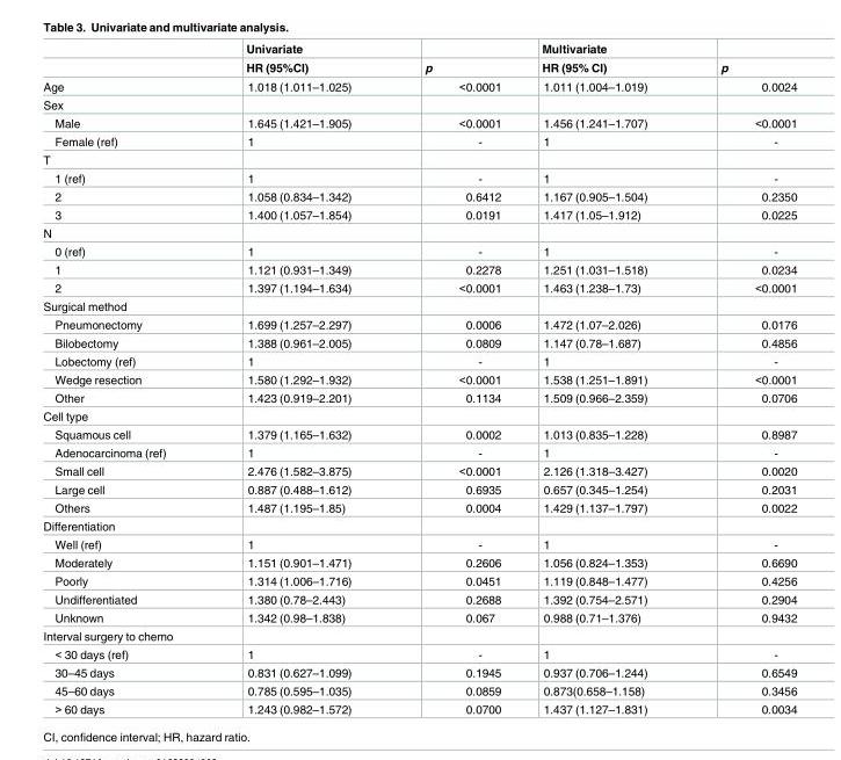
<table><thead><tr><td rowspan="2"></td><td rowspan="2">Univariate HR (95%CI)</td><td rowspan="2">p</td><td rowspan="2">Multivariate HR (95% CI)</td><td rowspan="2">p</td></tr><tr></tr></thead><tbody><tr><td>Age</td><td>1.018 (1.011–1.025)</td><td>&lt;0.0001</td><td>1.011 (1.004–1.019)</td><td>0.0024</td></tr><tr><td colspan="5">Sex</td></tr><tr><td>Male</td><td>1.645 (1.421–1.905)</td><td>&lt;0.0001</td><td>1.456 (1.241–1.707)</td><td>&lt;0.0001</td></tr><tr><td>Female (ref)</td><td>1</td><td>-</td><td>1</td><td>-</td></tr><tr><td colspan="5">T</td></tr><tr><td>1 (ref)</td><td>1</td><td>-</td><td>1</td><td>-</td></tr><tr><td>2</td><td>1.058 (0.834–1.342)</td><td>0.6412</td><td>1.167 (0.905–1.504)</td><td>0.2350</td></tr><tr><td>3</td><td>1.400 (1.057–1.854)</td><td>0.0191</td><td>1.417 (1.05–1.912)</td><td>0.0225</td></tr><tr><td colspan="5">N</td></tr><tr><td>0 (ref)</td><td>1</td><td>-</td><td>1</td><td>-</td></tr><tr><td>1</td><td>1.121 (0.931–1.349)</td><td>0.2278</td><td>1.251 (1.031–1.518)</td><td>0.0234</td></tr><tr><td>2</td><td>1.397 (1.194–1.634)</td><td>&lt;0.0001</td><td>1.463 (1.238–1.73)</td><td>&lt;0.0001</td></tr><tr><td colspan="5">Surgical method</td></tr><tr><td>Pneumonectomy</td><td>1.699 (1.257–2.297)</td><td>0.0006</td><td>1.472 (1.07–2.026)</td><td>0.0176</td></tr><tr><td>Bilobectomy</td><td>1.388 (0.961–2.005)</td><td>0.0809</td><td>1.147 (0.78–1.687)</td><td>0.4856</td></tr><tr><td>Lobectomy (ref)</td><td>1</td><td>-</td><td>1</td><td>-</td></tr><tr><td>Wedge resection</td><td>1.580 (1.292–1.932)</td><td>&lt;0.0001</td><td>1.538 (1.251–1.891)</td><td>&lt;0.0001</td></tr><tr><td>Other</td><td>1.423 (0.919–2.201)</td><td>0.1134</td><td>1.509 (0.966–2.359)</td><td>0.0706</td></tr><tr><td colspan="5">Cell type</td></tr><tr><td>Squamous cell</td><td>1.379 (1.165–1.632)</td><td>0.0002</td><td>1.013 (0.835–1.228)</td><td>0.8987</td></tr><tr><td>Adenocarcinoma (ref)</td><td>1</td><td>-</td><td>1</td><td>-</td></tr><tr><td>Small cell</td><td>2.476 (1.582–3.875)</td><td>&lt;0.0001</td><td>2.126 (1.318–3.427)</td><td>0.0020</td></tr><tr><td>Large cell</td><td>0.887 (0.488–1.612)</td><td>0.6935</td><td>0.657 (0.345–1.254)</td><td>0.2031</td></tr><tr><td>Others</td><td>1.487 (1.195–1.85)</td><td>0.0004</td><td>1.429 (1.137–1.797)</td><td>0.0022</td></tr><tr><td colspan="5">Differentiation</td></tr><tr><td>Well (ref)</td><td>1</td><td>-</td><td>1</td><td>-</td></tr><tr><td>Moderately</td><td>1.151 (0.901–1.471)</td><td>0.2606</td><td>1.056 (0.824–1.353)</td><td>0.6690</td></tr><tr><td>Poorly</td><td>1.314 (1.006–1.716)</td><td>0.0451</td><td>1.119 (0.848–1.477)</td><td>0.4256</td></tr><tr><td>Undifferentiated</td><td>1.380 (0.78–2.443)</td><td>0.2688</td><td>1.392 (0.754–2.571)</td><td>0.2904</td></tr><tr><td>Unknown</td><td>1.342 (0.98–1.838)</td><td>0.067</td><td>0.988 (0.71–1.376)</td><td>0.9432</td></tr><tr><td colspan="5">Interval surgery to chemo</td></tr><tr><td>&lt; 30 days (ref)</td><td>1</td><td>-</td><td>1</td><td>-</td></tr><tr><td>30–45 days</td><td>0.831 (0.627–1.099)</td><td>0.1945</td><td>0.937 (0.706–1.244)</td><td>0.6549</td></tr><tr><td>45–60 days</td><td>0.785 (0.595–1.035)</td><td>0.0859</td><td>0.873(0.658–1.158)</td><td>0.3456</td></tr><tr><td>&gt; 60 days</td><td>1.243 (0.982–1.572)</td><td>0.0700</td><td>1.437 (1.127–1.831)</td><td>0.0034</td></tr></tbody></table>